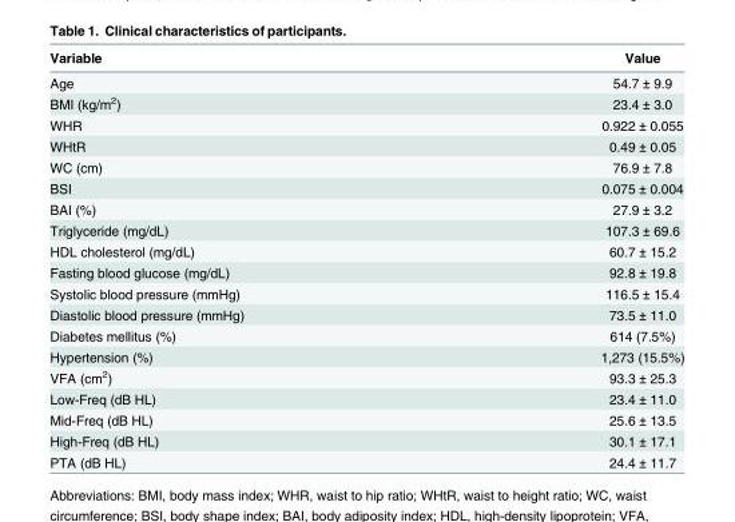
<table><thead><tr><td>Variable</td><td>Value</td></tr></thead><tbody><tr><td>Age</td><td>54.7 ± 9.9</td></tr><tr><td>BMI (kg/m<sup>2</sup>)</td><td>23.4 ± 3.0</td></tr><tr><td>WHR</td><td>0.922 ± 0.055</td></tr><tr><td>WHtR</td><td>0.49 ± 0.05</td></tr><tr><td>WC (cm)</td><td>76.9 ± 7.8</td></tr><tr><td>BSI</td><td>0.075 ± 0.004</td></tr><tr><td>BAI (%)</td><td>27.9 ± 3.2</td></tr><tr><td>Triglyceride (mg/dL)</td><td>107.3 ± 69.6</td></tr><tr><td>HDL cholesterol (mg/dL)</td><td>60.7 ± 15.2</td></tr><tr><td>Fasting blood glucose (mg/dL)</td><td>92.8 ± 19.8</td></tr><tr><td>Systolic blood pressure (mmHg)</td><td>116.5 ± 15.4</td></tr><tr><td>Diastolic blood pressure (mmHg)</td><td>73.5 ± 11.0</td></tr><tr><td>Diabetes mellitus (%)</td><td>614 (7.5%)</td></tr><tr><td>Hypertension (%)</td><td>1,273 (15.5%)</td></tr><tr><td>VFA (cm<sup>2</sup>)</td><td>93.3 ± 25.3</td></tr><tr><td>Low-Freq (dB HL)</td><td>23.4 ± 11.0</td></tr><tr><td>Mid-Freq (dB HL)</td><td>25.6 ± 13.5</td></tr><tr><td>High-Freq (dB HL)</td><td>30.1 ± 17.1</td></tr><tr><td>PTA (dB HL)</td><td>24.4 ± 11.7</td></tr></tbody></table>